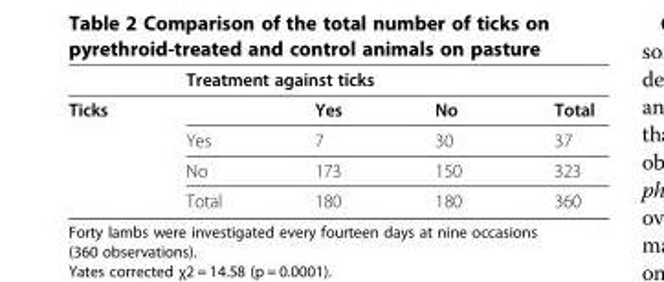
<table><thead><tr><td rowspan="2">Ticks</td><td colspan="4">Treatment against ticks</td></tr><tr><td></td><td>Yes</td><td>No</td><td>Total</td></tr></thead><tbody><tr><td></td><td>Yes</td><td>7</td><td>30</td><td>37</td></tr><tr><td></td><td>No</td><td>173</td><td>150</td><td>323</td></tr><tr><td></td><td>Total</td><td>180</td><td>180</td><td>360</td></tr></tbody></table>